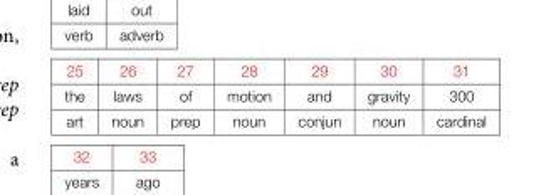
<table><tbody><tr><td>25</td><td>26</td><td>27</td><td>28</td><td>29</td><td>30</td><td>31</td></tr><tr><td>the</td><td>laws</td><td>of</td><td>motion</td><td>and</td><td>gravity</td><td>300</td></tr><tr><td>art</td><td>noun</td><td>prep</td><td>noun</td><td>conjun</td><td>noun</td><td>cardinal</td></tr></tbody></table>